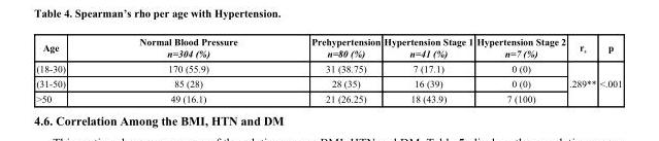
<table><thead><tr><td>Age</td><td>Normal Blood Pressure n=304 (%)</td><td>Prehypertension n=80 (%)</td><td>Hypertension Stage 1 n=41 (%)</td><td>Hypertension Stage 2 n=7 (%)</td><td>r<sub>s</sub></td><td>p</td></tr></thead><tbody><tr><td>(18-30)</td><td>170 (55.9)</td><td>31 (38.75)</td><td>7 (17.1)</td><td>0 (0)</td><td rowspan="3">.289**</td><td rowspan="3">&lt;.001</td></tr><tr><td>(31-50)</td><td>85 (28)</td><td>28 (35)</td><td>16 (39)</td><td>0 (0)</td></tr><tr><td>&gt;50</td><td>49 (16.1)</td><td>21 (26.25)</td><td>18 (43.9)</td><td>7 (100)</td></tr></tbody></table>